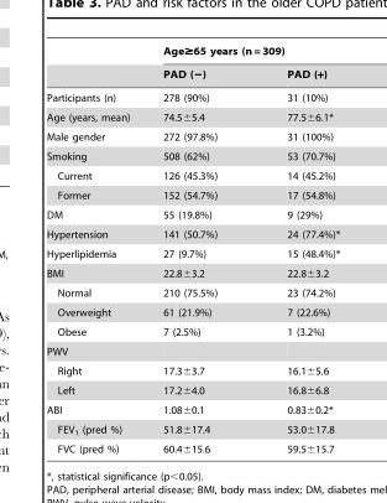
<table><thead><tr><td rowspan="2"></td><td colspan="2">Age≥65 years (n = 309)</td></tr><tr><td>PAD (−)</td><td>PAD (+)</td></tr></thead><tbody><tr><td>Participants (n)</td><td>278 (90%)</td><td>31 (10%)</td></tr><tr><td>Age (years, mean)</td><td>74.5±5.4</td><td>77.5±6.1*</td></tr><tr><td>Male gender</td><td>272 (97.8%)</td><td>31 (100%)</td></tr><tr><td>Smoking</td><td>508 (62%)</td><td>53 (70.7%)</td></tr><tr><td>Current</td><td>126 (45.3%)</td><td>14 (45.2%)</td></tr><tr><td>Former</td><td>152 (54.7%)</td><td>17 (54.8%)</td></tr><tr><td>DM</td><td>55 (19.8%)</td><td>9 (29%)</td></tr><tr><td>Hypertension</td><td>141 (50.7%)</td><td>24 (77.4%)*</td></tr><tr><td>Hyperlipidemia</td><td>27 (9.7%)</td><td>15 (48.4%)*</td></tr><tr><td>BMI</td><td>22.8±3.2</td><td>22.8±3.2</td></tr><tr><td>Normal</td><td>210 (75.5%)</td><td>23 (74.2%)</td></tr><tr><td>Overweight</td><td>61 (21.9%)</td><td>7 (22.6%)</td></tr><tr><td>Obese</td><td>7 (2.5%)</td><td>1 (3.2%)</td></tr><tr><td colspan="3">PWV</td></tr><tr><td>Right</td><td>17.3±3.7</td><td>16.1±5.6</td></tr><tr><td>Left</td><td>17.2±4.0</td><td>16.8±6.8</td></tr><tr><td>ABI</td><td>1.08±0.1</td><td>0.83±0.2*</td></tr><tr><td>FEV<sub>1</sub> (pred %)</td><td>51.8±17.4</td><td>53.0±17.8</td></tr><tr><td>FVC (pred %)</td><td>60.4±15.6</td><td>59.5±15.7</td></tr></tbody></table>